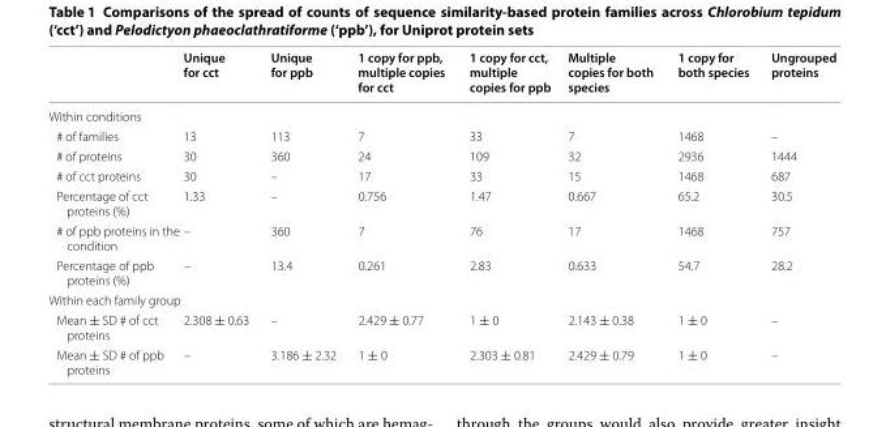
<table><thead><tr><td></td><td>Unique for cct</td><td>Unique for ppb</td><td>1 copy for ppb, multiple copies for cct</td><td>1 copy for cct, multiple copies for ppb</td><td>Multiple copies for both species</td><td>1 copy for both species</td><td>Ungrouped proteins</td></tr></thead><tbody><tr><td colspan="8">Within conditions</td></tr><tr><td># of families</td><td>13</td><td>113</td><td>7</td><td>33</td><td>7</td><td>1468</td><td>–</td></tr><tr><td># of proteins</td><td>30</td><td>360</td><td>24</td><td>109</td><td>32</td><td>2936</td><td>1444</td></tr><tr><td># of cct proteins</td><td>30</td><td>–</td><td>17</td><td>33</td><td>15</td><td>1468</td><td>687</td></tr><tr><td>Percentage of cct proteins (%)</td><td>1.33</td><td>–</td><td>0.756</td><td>1.47</td><td>0.667</td><td>65.2</td><td>30.5</td></tr><tr><td># of ppb proteins in the condition</td><td>–</td><td>360</td><td>7</td><td>76</td><td>17</td><td>1468</td><td>757</td></tr><tr><td>Percentage of ppb proteins (%)</td><td>–</td><td>13.4</td><td>0.261</td><td>2.83</td><td>0.633</td><td>54.7</td><td>28.2</td></tr><tr><td colspan="8">Within each family group</td></tr><tr><td>Mean ± SD # of cct proteins</td><td>2.308 ± 0.63</td><td>–</td><td>2.429 ± 0.77</td><td>1 ± 0</td><td>2.143 ± 0.38</td><td>1 ± 0</td><td>–</td></tr><tr><td>Mean ± SD # of ppb proteins</td><td>–</td><td>3.186 ± 2.32</td><td>1 ± 0</td><td>2.303 ± 0.81</td><td>2.429 ± 0.79</td><td>1 ± 0</td><td>–</td></tr></tbody></table>